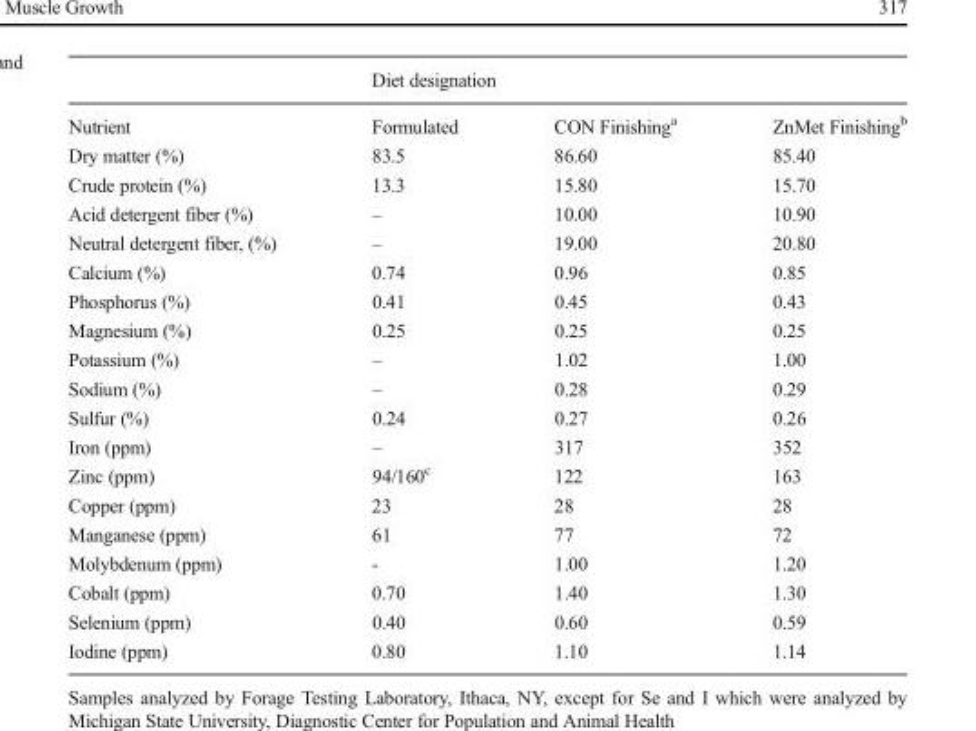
<table><thead><tr><td rowspan="2">Nutrient</td><td colspan="3">Diet designation</td></tr><tr><td>Formulated</td><td>CON Finishing<sup>a</sup></td><td>ZnMet Finishing<sup>b</sup></td></tr></thead><tbody><tr><td>Dry matter (%)</td><td>83.5</td><td>86.60</td><td>85.40</td></tr><tr><td>Crude protein (%)</td><td>13.3</td><td>15.80</td><td>15.70</td></tr><tr><td>Acid detergent fiber (%)</td><td>–</td><td>10.00</td><td>10.90</td></tr><tr><td>Neutral detergent fiber, (%)</td><td>–</td><td>19.00</td><td>20.80</td></tr><tr><td>Calcium (%)</td><td>0.74</td><td>0.96</td><td>0.85</td></tr><tr><td>Phosphorus (%)</td><td>0.41</td><td>0.45</td><td>0.43</td></tr><tr><td>Magnesium (%)</td><td>0.25</td><td>0.25</td><td>0.25</td></tr><tr><td>Potassium (%)</td><td>–</td><td>1.02</td><td>1.00</td></tr><tr><td>Sodium (%)</td><td>–</td><td>0.28</td><td>0.29</td></tr><tr><td>Sulfur (%)</td><td>0.24</td><td>0.27</td><td>0.26</td></tr><tr><td>Iron (ppm)</td><td>–</td><td>317</td><td>352</td></tr><tr><td>Zinc (ppm)</td><td>94/160<sup>c</sup></td><td>122</td><td>163</td></tr><tr><td>Copper (ppm)</td><td>23</td><td>28</td><td>28</td></tr><tr><td>Manganese (ppm)</td><td>61</td><td>77</td><td>72</td></tr><tr><td>Molybdenum (ppm)</td><td>-</td><td>1.00</td><td>1.20</td></tr><tr><td>Cobalt (ppm)</td><td>0.70</td><td>1.40</td><td>1.30</td></tr><tr><td>Selenium (ppm)</td><td>0.40</td><td>0.60</td><td>0.59</td></tr><tr><td>Iodine (ppm)</td><td>0.80</td><td>1.10</td><td>1.14</td></tr></tbody></table>